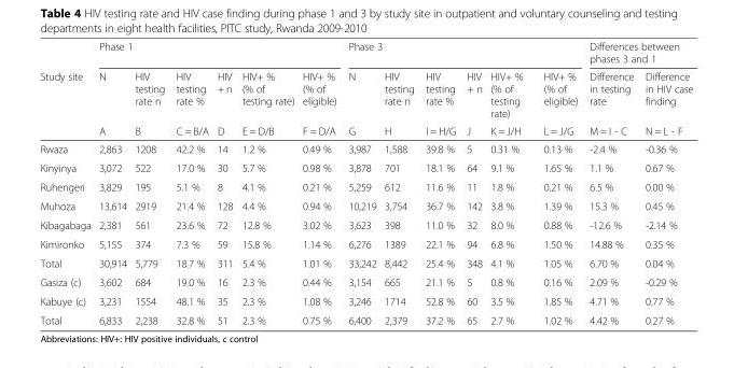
<table><thead><tr><td rowspan="3">Study site</td><td colspan="6">Phase 1</td><td colspan="6">Phase 3</td><td colspan="2">Differences between phases 3 and 1</td></tr><tr><td rowspan="2">N A</td><td rowspan="2">HIV testing rate n B</td><td rowspan="2">HIV testing rate % C = B/A</td><td rowspan="2">HIV + n D</td><td rowspan="2">HIV+ % (% of testing rate) E = D/B</td><td rowspan="2">HIV+ % (% of eligible) F = D/A</td><td rowspan="2">N G</td><td rowspan="2">HIV testing rate n H</td><td rowspan="2">HIV testing rate % I = H/G</td><td rowspan="2">HIV + n J</td><td rowspan="2">HIV+ % (% of testing rate) K = J/H</td><td rowspan="2">HIV+ % (% of eligible) L = J/G</td><td rowspan="2">Difference in testing rate M = I - C</td><td rowspan="2">Difference in HIV case finding N = L - F</td></tr><tr></tr></thead><tbody><tr><td>Rwaza</td><td>2,863</td><td>1208</td><td>42.2 %</td><td>14</td><td>1.2 %</td><td>0.49 %</td><td>3,987</td><td>1,588</td><td>39.8 %</td><td>5</td><td>0.31 %</td><td>0.13 %</td><td>-2.4 %</td><td>-0.36 %</td></tr><tr><td>Kinyinya</td><td>3,072</td><td>522</td><td>17.0 %</td><td>30</td><td>5.7 %</td><td>0.98 %</td><td>3,878</td><td>701</td><td>18.1 %</td><td>64</td><td>9.1 %</td><td>1.65 %</td><td>1.1 %</td><td>0.67 %</td></tr><tr><td>Ruhengeri</td><td>3,829</td><td>195</td><td>5.1 %</td><td>8</td><td>4.1 %</td><td>0.21 %</td><td>5,259</td><td>612</td><td>11.6 %</td><td>11</td><td>1.8 %</td><td>0.21 %</td><td>6.5 %</td><td>0.00 %</td></tr><tr><td>Muhoza</td><td>13,614</td><td>2919</td><td>21.4 %</td><td>128</td><td>4.4 %</td><td>0.94 %</td><td>10,219</td><td>3,754</td><td>36.7 %</td><td>142</td><td>3.8 %</td><td>1.39 %</td><td>15.3 %</td><td>0.45 %</td></tr><tr><td>Kibagabaga</td><td>2,381</td><td>561</td><td>23.6 %</td><td>72</td><td>12.8 %</td><td>3.02 %</td><td>3,623</td><td>398</td><td>11.0 %</td><td>32</td><td>8.0 %</td><td>0.88 %</td><td>-12.6 %</td><td>-2.14 %</td></tr><tr><td>Kimironko</td><td>5,155</td><td>374</td><td>7.3 %</td><td>59</td><td>15.8 %</td><td>1.14 %</td><td>6,276</td><td>1389</td><td>22.1 %</td><td>94</td><td>6.8 %</td><td>1.50 %</td><td>14.88 %</td><td>0.35 %</td></tr><tr><td>Total</td><td>30,914</td><td>5,779</td><td>18.7 %</td><td>311</td><td>5.4 %</td><td>1.01 %</td><td>33,242</td><td>8,442</td><td>25.4 %</td><td>348</td><td>4.1 %</td><td>1.05 %</td><td>6.70 %</td><td>0.04 %</td></tr><tr><td>Gasiza (c)</td><td>3,602</td><td>684</td><td>19.0 %</td><td>16</td><td>2.3 %</td><td>0.44 %</td><td>3,154</td><td>665</td><td>21.1 %</td><td>5</td><td>0.8 %</td><td>0.16 %</td><td>2.09 %</td><td>-0.29 %</td></tr><tr><td>Kabuye (c)</td><td>3,231</td><td>1554</td><td>48.1 %</td><td>35</td><td>2.3 %</td><td>1.08 %</td><td>3,246</td><td>1714</td><td>52.8 %</td><td>60</td><td>3.5 %</td><td>1.85 %</td><td>4.71 %</td><td>0.77 %</td></tr><tr><td>Total</td><td>6,833</td><td>2,238</td><td>32.8 %</td><td>51</td><td>2.3 %</td><td>0.75 %</td><td>6,400</td><td>2,379</td><td>37.2 %</td><td>65</td><td>2.7 %</td><td>1.02 %</td><td>4.42 %</td><td>0.27 %</td></tr></tbody></table>